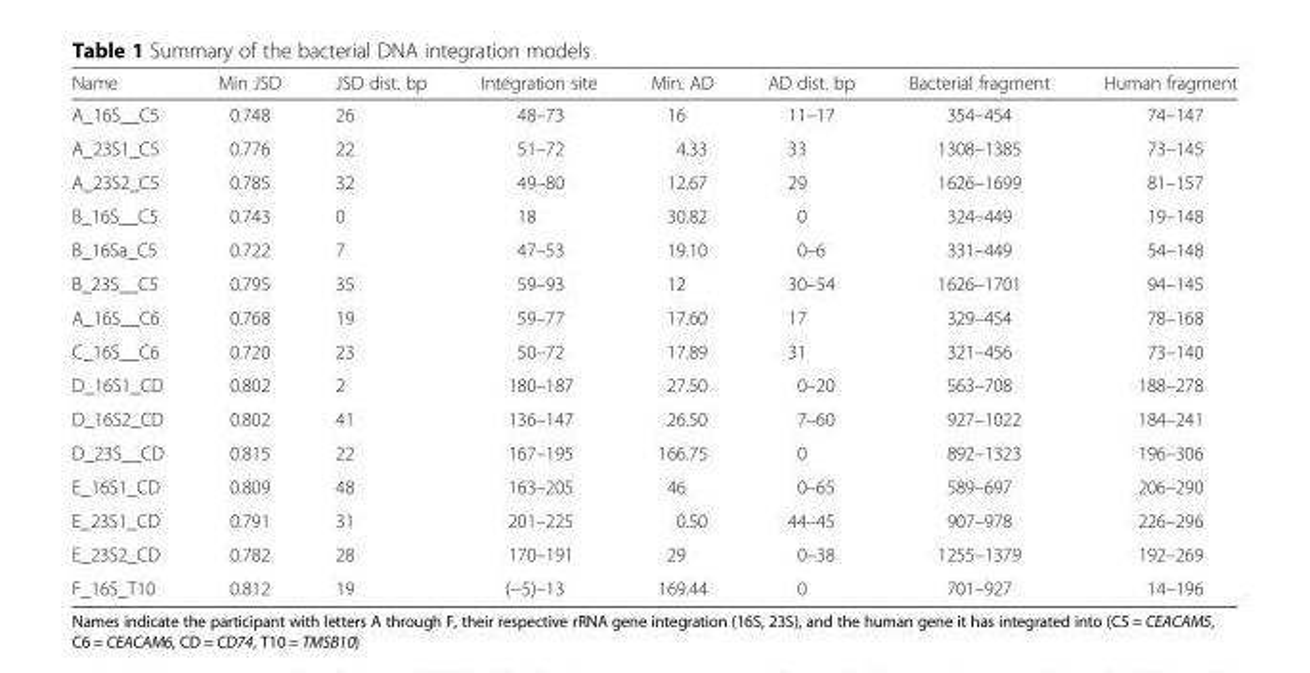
<table><thead><tr><td>Name</td><td>Min JSD</td><td>JSD dist. bp</td><td>Integration site</td><td>Min. AD</td><td>AD dist. bp</td><td>Bacterial fragment</td><td>Human fragment</td></tr></thead><tbody><tr><td>A_16S__C5</td><td>0.748</td><td>26</td><td>48–73</td><td>16</td><td>11–17</td><td>354–454</td><td>74–147</td></tr><tr><td>A_23S1_C5</td><td>0.776</td><td>22</td><td>51–72</td><td>4.33</td><td>33</td><td>1308–1385</td><td>73–145</td></tr><tr><td>A_23S2_C5</td><td>0.785</td><td>32</td><td>49–80</td><td>12.67</td><td>29</td><td>1626–1699</td><td>81–157</td></tr><tr><td>B_16S__C5</td><td>0.743</td><td>0</td><td>18</td><td>30.82</td><td>0</td><td>324–449</td><td>19–148</td></tr><tr><td>B_16Sa_C5</td><td>0.722</td><td>7</td><td>47–53</td><td>19.10</td><td>0–6</td><td>331–449</td><td>54–148</td></tr><tr><td>B_23S__C5</td><td>0.795</td><td>35</td><td>59–93</td><td>12</td><td>30–54</td><td>1626–1701</td><td>94–145</td></tr><tr><td>A_16S__C6</td><td>0.768</td><td>19</td><td>59–77</td><td>17.60</td><td>17</td><td>329–454</td><td>78–168</td></tr><tr><td>C_16S__C6</td><td>0.720</td><td>23</td><td>50–72</td><td>17.89</td><td>31</td><td>321–456</td><td>73–140</td></tr><tr><td>D_16S1_CD</td><td>0.802</td><td>2</td><td>180–187</td><td>27.50</td><td>0–20</td><td>563–708</td><td>188–278</td></tr><tr><td>D_16S2_CD</td><td>0.802</td><td>41</td><td>136–147</td><td>26.50</td><td>7–60</td><td>927–1022</td><td>184–241</td></tr><tr><td>D_23S__CD</td><td>0.815</td><td>22</td><td>167–195</td><td>166.75</td><td>0</td><td>892–1323</td><td>196–306</td></tr><tr><td>E_16S1_CD</td><td>0.809</td><td>48</td><td>163–205</td><td>46</td><td>0–65</td><td>589–697</td><td>206–290</td></tr><tr><td>E_23S1_CD</td><td>0.791</td><td>31</td><td>201–225</td><td>0.50</td><td>44–45</td><td>907–978</td><td>226–296</td></tr><tr><td>E_23S2_CD</td><td>0.782</td><td>28</td><td>170–191</td><td>29</td><td>0–38</td><td>1255–1379</td><td>192–269</td></tr><tr><td>F_16S_T10</td><td>0.812</td><td>19</td><td>(−5)–13</td><td>169.44</td><td>0</td><td>701–927</td><td>14–196</td></tr></tbody></table>